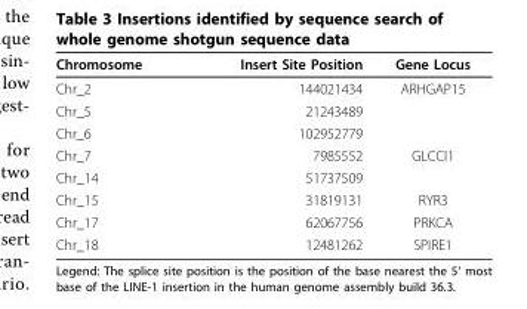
<table><tbody><tr><td>Chromosome</td><td>Insert Site Position</td><td>Gene Locus</td></tr><tr><td>Chr_2</td><td>144021434</td><td>ARHGAP15</td></tr><tr><td>Chr_5</td><td>21243489</td><td></td></tr><tr><td>Chr_6</td><td>102952779</td><td></td></tr><tr><td>Chr_7</td><td>7985552</td><td>GLCCI1</td></tr><tr><td>Chr_14</td><td>51737509</td><td></td></tr><tr><td>Chr_15</td><td>31819131</td><td>RYR3</td></tr><tr><td>Chr_17</td><td>62067756</td><td>PRKCA</td></tr><tr><td>Chr_18</td><td>12481262</td><td>SPIRE1</td></tr></tbody></table>